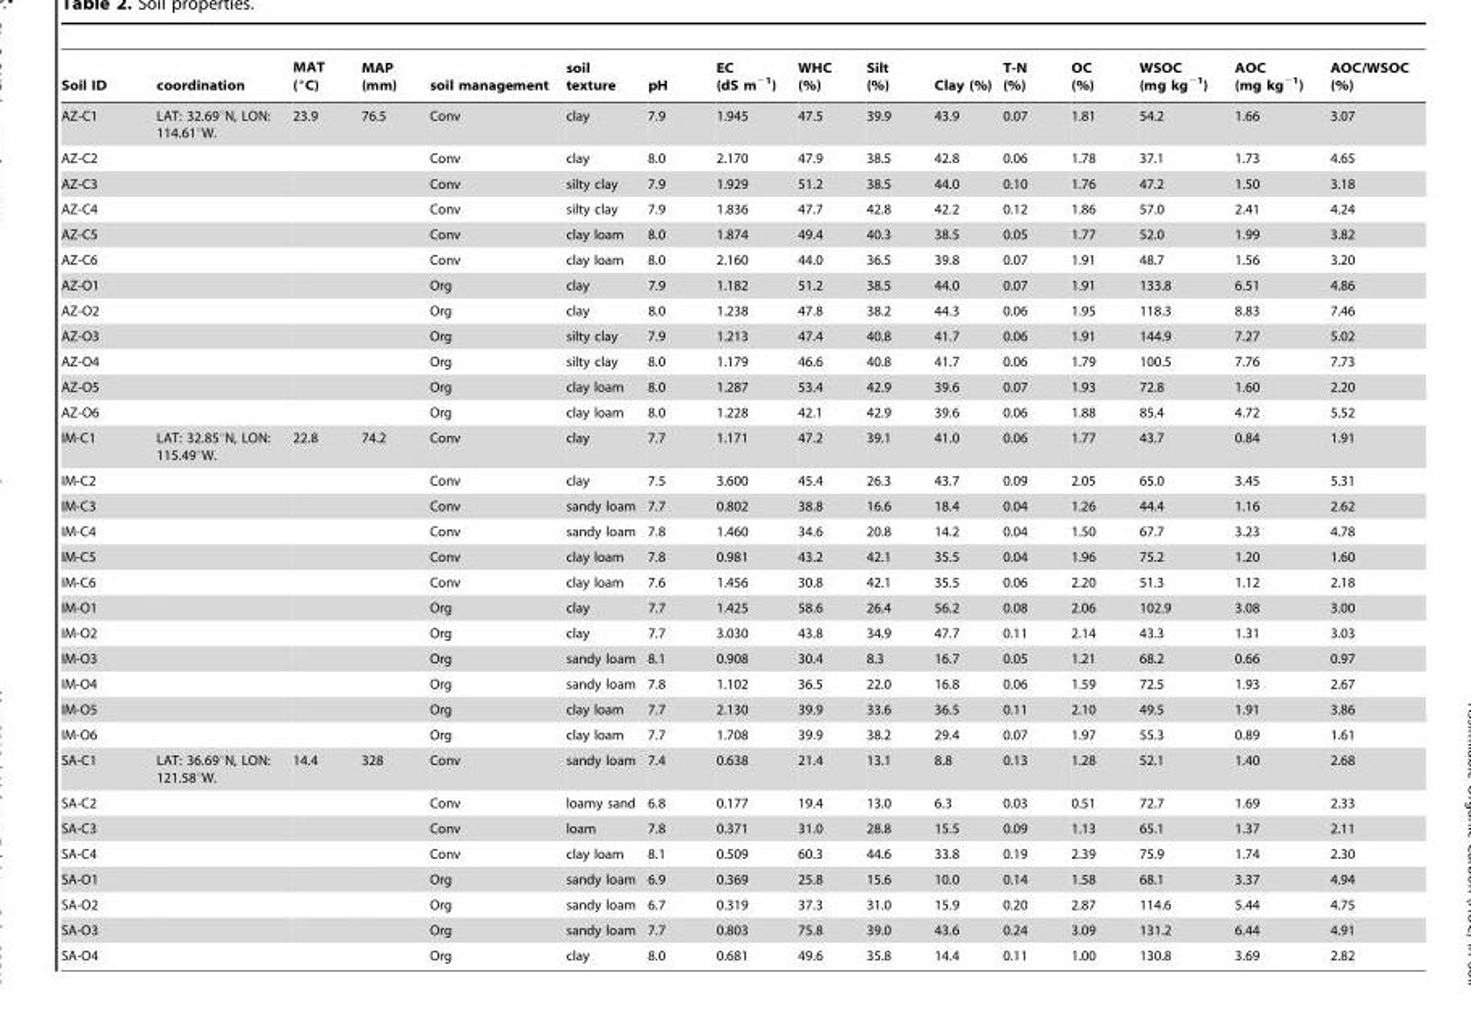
<table><thead><tr><td>Soil ID</td><td>coordination</td><td>MAT (°C)</td><td>MAP (mm)</td><td>soil management</td><td>soil texture</td><td>pH</td><td>EC (dS m<sup>−1</sup>)</td><td>WHC (%)</td><td>Silt (%)</td><td>Clay (%)</td><td>T-N (%)</td><td>OC (%)</td><td>WSOC (mg kg<sup>−1</sup>)</td><td>AOC (mg kg<sup>−1</sup>)</td><td>AOC/WSOC (%)</td></tr></thead><tbody><tr><td>AZ-C1</td><td>LAT: 32.69°N, LON: 114.61°W.</td><td>23.9</td><td>76.5</td><td>Conv</td><td>clay</td><td>7.9</td><td>1.945</td><td>47.5</td><td>39.9</td><td>43.9</td><td>0.07</td><td>1.81</td><td>54.2</td><td>1.66</td><td>3.07</td></tr><tr><td>AZ-C2</td><td></td><td></td><td></td><td>Conv</td><td>clay</td><td>8.0</td><td>2.170</td><td>47.9</td><td>38.5</td><td>42.8</td><td>0.06</td><td>1.78</td><td>37.1</td><td>1.73</td><td>4.65</td></tr><tr><td>AZ-C3</td><td></td><td></td><td></td><td>Conv</td><td>silty clay</td><td>7.9</td><td>1.929</td><td>51.2</td><td>38.5</td><td>44.0</td><td>0.10</td><td>1.76</td><td>47.2</td><td>1.50</td><td>3.18</td></tr><tr><td>AZ-C4</td><td></td><td></td><td></td><td>Conv</td><td>silty clay</td><td>7.9</td><td>1.836</td><td>47.7</td><td>42.8</td><td>42.2</td><td>0.12</td><td>1.86</td><td>57.0</td><td>2.41</td><td>4.24</td></tr><tr><td>AZ-C5</td><td></td><td></td><td></td><td>Conv</td><td>clay loam</td><td>8.0</td><td>1.874</td><td>49.4</td><td>40.3</td><td>38.5</td><td>0.05</td><td>1.77</td><td>52.0</td><td>1.99</td><td>3.82</td></tr><tr><td>AZ-C6</td><td></td><td></td><td></td><td>Conv</td><td>clay loam</td><td>8.0</td><td>2.160</td><td>44.0</td><td>36.5</td><td>39.8</td><td>0.07</td><td>1.91</td><td>48.7</td><td>1.56</td><td>3.20</td></tr><tr><td>AZ-O1</td><td></td><td></td><td></td><td>Org</td><td>clay</td><td>7.9</td><td>1.182</td><td>51.2</td><td>38.5</td><td>44.0</td><td>0.07</td><td>1.91</td><td>133.8</td><td>6.51</td><td>4.86</td></tr><tr><td>AZ-O2</td><td></td><td></td><td></td><td>Org</td><td>clay</td><td>8.0</td><td>1.238</td><td>47.8</td><td>38.2</td><td>44.3</td><td>0.06</td><td>1.95</td><td>118.3</td><td>8.83</td><td>7.46</td></tr><tr><td>AZ-O3</td><td></td><td></td><td></td><td>Org</td><td>silty clay</td><td>7.9</td><td>1.213</td><td>47.4</td><td>40.8</td><td>41.7</td><td>0.06</td><td>1.91</td><td>144.9</td><td>7.27</td><td>5.02</td></tr><tr><td>AZ-O4</td><td></td><td></td><td></td><td>Org</td><td>silty clay</td><td>8.0</td><td>1.179</td><td>46.6</td><td>40.8</td><td>41.7</td><td>0.06</td><td>1.79</td><td>100.5</td><td>7.76</td><td>7.73</td></tr><tr><td>AZ-O5</td><td></td><td></td><td></td><td>Org</td><td>clay loam</td><td>8.0</td><td>1.287</td><td>53.4</td><td>42.9</td><td>39.6</td><td>0.07</td><td>1.93</td><td>72.8</td><td>1.60</td><td>2.20</td></tr><tr><td>AZ-O6</td><td></td><td></td><td></td><td>Org</td><td>clay loam</td><td>8.0</td><td>1.228</td><td>42.1</td><td>42.9</td><td>39.6</td><td>0.06</td><td>1.88</td><td>85.4</td><td>4.72</td><td>5.52</td></tr><tr><td>IM-C1</td><td>LAT: 32.85°N, LON: 115.49°W.</td><td>22.8</td><td>74.2</td><td>Conv</td><td>clay</td><td>7.7</td><td>1.171</td><td>47.2</td><td>39.1</td><td>41.0</td><td>0.06</td><td>1.77</td><td>43.7</td><td>0.84</td><td>1.91</td></tr><tr><td>IM-C2</td><td></td><td></td><td></td><td>Conv</td><td>clay</td><td>7.5</td><td>3.600</td><td>45.4</td><td>26.3</td><td>43.7</td><td>0.09</td><td>2.05</td><td>65.0</td><td>3.45</td><td>5.31</td></tr><tr><td>IM-C3</td><td></td><td></td><td></td><td>Conv</td><td>sandy loam</td><td>7.7</td><td>0.802</td><td>38.8</td><td>16.6</td><td>18.4</td><td>0.04</td><td>1.26</td><td>44.4</td><td>1.16</td><td>2.62</td></tr><tr><td>IM-C4</td><td></td><td></td><td></td><td>Conv</td><td>sandy loam</td><td>7.8</td><td>1.460</td><td>34.6</td><td>20.8</td><td>14.2</td><td>0.04</td><td>1.50</td><td>67.7</td><td>3.23</td><td>4.78</td></tr><tr><td>IM-C5</td><td></td><td></td><td></td><td>Conv</td><td>clay loam</td><td>7.8</td><td>0.981</td><td>43.2</td><td>42.1</td><td>35.5</td><td>0.04</td><td>1.96</td><td>75.2</td><td>1.20</td><td>1.60</td></tr><tr><td>IM-C6</td><td></td><td></td><td></td><td>Conv</td><td>clay loam</td><td>7.6</td><td>1.456</td><td>30.8</td><td>42.1</td><td>35.5</td><td>0.06</td><td>2.20</td><td>51.3</td><td>1.12</td><td>2.18</td></tr><tr><td>IM-O1</td><td></td><td></td><td></td><td>Org</td><td>clay</td><td>7.7</td><td>1.425</td><td>58.6</td><td>26.4</td><td>56.2</td><td>0.08</td><td>2.06</td><td>102.9</td><td>3.08</td><td>3.00</td></tr><tr><td>IM-O2</td><td></td><td></td><td></td><td>Org</td><td>clay</td><td>7.7</td><td>3.030</td><td>43.8</td><td>34.9</td><td>47.7</td><td>0.11</td><td>2.14</td><td>43.3</td><td>1.31</td><td>3.03</td></tr><tr><td>IM-O3</td><td></td><td></td><td></td><td>Org</td><td>sandy loam</td><td>8.1</td><td>0.908</td><td>30.4</td><td>8.3</td><td>16.7</td><td>0.05</td><td>1.21</td><td>68.2</td><td>0.66</td><td>0.97</td></tr><tr><td>IM-O4</td><td></td><td></td><td></td><td>Org</td><td>sandy loam</td><td>7.8</td><td>1.102</td><td>36.5</td><td>22.0</td><td>16.8</td><td>0.06</td><td>1.59</td><td>72.5</td><td>1.93</td><td>2.67</td></tr><tr><td>IM-O5</td><td></td><td></td><td></td><td>Org</td><td>clay loam</td><td>7.7</td><td>2.130</td><td>39.9</td><td>33.6</td><td>36.5</td><td>0.11</td><td>2.10</td><td>49.5</td><td>1.91</td><td>3.86</td></tr><tr><td>IM-O6</td><td></td><td></td><td></td><td>Org</td><td>clay loam</td><td>7.7</td><td>1.708</td><td>39.9</td><td>38.2</td><td>29.4</td><td>0.07</td><td>1.97</td><td>55.3</td><td>0.89</td><td>1.61</td></tr><tr><td>SA-C1</td><td>LAT: 36.69°N, LON: 121.58°W.</td><td>14.4</td><td>328</td><td>Conv</td><td>sandy loam</td><td>7.4</td><td>0.638</td><td>21.4</td><td>13.1</td><td>8.8</td><td>0.13</td><td>1.28</td><td>52.1</td><td>1.40</td><td>2.68</td></tr><tr><td>SA-C2</td><td></td><td></td><td></td><td>Conv</td><td>loamy sand</td><td>6.8</td><td>0.177</td><td>19.4</td><td>13.0</td><td>6.3</td><td>0.03</td><td>0.51</td><td>72.7</td><td>1.69</td><td>2.33</td></tr><tr><td>SA-C3</td><td></td><td></td><td></td><td>Conv</td><td>loam</td><td>7.8</td><td>0.371</td><td>31.0</td><td>28.8</td><td>15.5</td><td>0.09</td><td>1.13</td><td>65.1</td><td>1.37</td><td>2.11</td></tr><tr><td>SA-C4</td><td></td><td></td><td></td><td>Conv</td><td>clay loam</td><td>8.1</td><td>0.509</td><td>60.3</td><td>44.6</td><td>33.8</td><td>0.19</td><td>2.39</td><td>75.9</td><td>1.74</td><td>2.30</td></tr><tr><td>SA-O1</td><td></td><td></td><td></td><td>Org</td><td>sandy loam</td><td>6.9</td><td>0.369</td><td>25.8</td><td>15.6</td><td>10.0</td><td>0.14</td><td>1.58</td><td>68.1</td><td>3.37</td><td>4.94</td></tr><tr><td>SA-O2</td><td></td><td></td><td></td><td>Org</td><td>sandy loam</td><td>6.7</td><td>0.319</td><td>37.3</td><td>31.0</td><td>15.9</td><td>0.20</td><td>2.87</td><td>114.6</td><td>5.44</td><td>4.75</td></tr><tr><td>SA-O3</td><td></td><td></td><td></td><td>Org</td><td>sandy loam</td><td>7.7</td><td>0.803</td><td>75.8</td><td>39.0</td><td>43.6</td><td>0.24</td><td>3.09</td><td>131.2</td><td>6.44</td><td>4.91</td></tr><tr><td>SA-O4</td><td></td><td></td><td></td><td>Org</td><td>clay</td><td>8.0</td><td>0.681</td><td>49.6</td><td>35.8</td><td>14.4</td><td>0.11</td><td>1.00</td><td>130.8</td><td>3.69</td><td>2.82</td></tr></tbody></table>